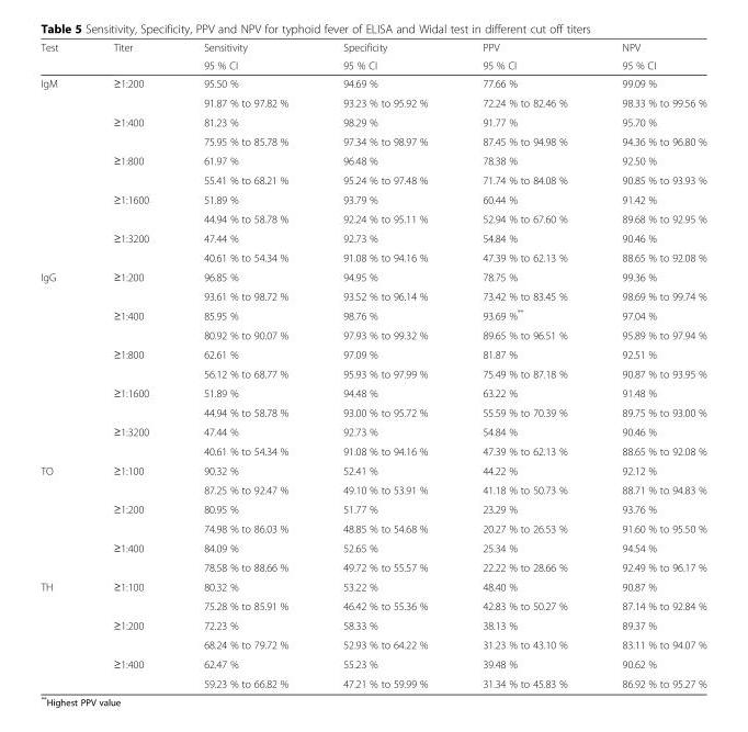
<table><thead><tr><td rowspan="2">Test</td><td rowspan="2">Titer</td><td rowspan="2">Sensitivity 95 % CI</td><td rowspan="2">Specificity 95 % CI</td><td rowspan="2">PPV 95 % CI</td><td rowspan="2">NPV 95 % CI</td></tr><tr></tr></thead><tbody><tr><td rowspan="10">IgM</td><td>≥1:200</td><td>95.50 %</td><td>94.69 %</td><td>77.66 %</td><td>99.09 %</td></tr><tr><td></td><td>91.87 % to 97.82 %</td><td>93.23 % to 95.92 %</td><td>72.24 % to 82.46 %</td><td>98.33 % to 99.56 %</td></tr><tr><td>≥1:400</td><td>81.23 %</td><td>98.29 %</td><td>91.77 %</td><td>95.70 %</td></tr><tr><td></td><td>75.95 % to 85.78 %</td><td>97.34 % to 98.97 %</td><td>87.45 % to 94.98 %</td><td>94.36 % to 96.80 %</td></tr><tr><td>≥1:800</td><td>61.97 %</td><td>96.48 %</td><td>78.38 %</td><td>92.50 %</td></tr><tr><td></td><td>55.41 % to 68.21 %</td><td>95.24 % to 97.48 %</td><td>71.74 % to 84.08 %</td><td>90.85 % to 93.93 %</td></tr><tr><td>≥1:1600</td><td>51.89 %</td><td>93.79 %</td><td>60.44 %</td><td>91.42 %</td></tr><tr><td></td><td>44.94 % to 58.78 %</td><td>92.24 % to 95.11 %</td><td>52.94 % to 67.60 %</td><td>89.68 % to 92.95 %</td></tr><tr><td>≥1:3200</td><td>47.44 %</td><td>92.73 %</td><td>54.84 %</td><td>90.46 %</td></tr><tr><td></td><td>40.61 % to 54.34 %</td><td>91.08 % to 94.16 %</td><td>47.39 % to 62.13 %</td><td>88.65 % to 92.08 %</td></tr><tr><td rowspan="10">IgG</td><td>≥1:200</td><td>96.85 %</td><td>94.95 %</td><td>78.75 %</td><td>99.36 %</td></tr><tr><td></td><td>93.61 % to 98.72 %</td><td>93.52 % to 96.14 %</td><td>73.42 % to 83.45 %</td><td>98.69 % to 99.74 %</td></tr><tr><td>≥1:400</td><td>85.95 %</td><td>98.76 %</td><td>93.69 %**</td><td>97.04 %</td></tr><tr><td></td><td>80.92 % to 90.07 %</td><td>97.93 % to 99.32 %</td><td>89.65 % to 96.51 %</td><td>95.89 % to 97.94 %</td></tr><tr><td>≥1:800</td><td>62.61 %</td><td>97.09 %</td><td>81.87 %</td><td>92.51 %</td></tr><tr><td></td><td>56.12 % to 68.77 %</td><td>95.93 % to 97.99 %</td><td>75.49 % to 87.18 %</td><td>90.87 % to 93.95 %</td></tr><tr><td>≥1:1600</td><td>51.89 %</td><td>94.48 %</td><td>63.22 %</td><td>91.48 %</td></tr><tr><td></td><td>44.94 % to 58.78 %</td><td>93.00 % to 95.72 %</td><td>55.59 % to 70.39 %</td><td>89.75 % to 93.00 %</td></tr><tr><td>≥1:3200</td><td>47.44 %</td><td>92.73 %</td><td>54.84 %</td><td>90.46 %</td></tr><tr><td></td><td>40.61 % to 54.34 %</td><td>91.08 % to 94.16 %</td><td>47.39 % to 62.13 %</td><td>88.65 % to 92.08 %</td></tr><tr><td rowspan="6">TO</td><td>≥1:100</td><td>90.32 %</td><td>52.41 %</td><td>44.22 %</td><td>92.12 %</td></tr><tr><td></td><td>87.25 % to 92.47 %</td><td>49.10 % to 53.91 %</td><td>41.18 % to 50.73 %</td><td>88.71 % to 94.83 %</td></tr><tr><td>≥1:200</td><td>80.95 %</td><td>51.77 %</td><td>23.29 %</td><td>93.76 %</td></tr><tr><td></td><td>74.98 % to 86.03 %</td><td>48.85 % to 54.68 %</td><td>20.27 % to 26.53 %</td><td>91.60 % to 95.50 %</td></tr><tr><td>≥1:400</td><td>84.09 %</td><td>52.65 %</td><td>25.34 %</td><td>94.54 %</td></tr><tr><td></td><td>78.58 % to 88.66 %</td><td>49.72 % to 55.57 %</td><td>22.22 % to 28.66 %</td><td>92.49 % to 96.17 %</td></tr><tr><td rowspan="6">TH</td><td>≥1:100</td><td>80.32 %</td><td>53.22 %</td><td>48.40 %</td><td>90.87 %</td></tr><tr><td></td><td>75.28 % to 85.91 %</td><td>46.42 % to 55.36 %</td><td>42.83 % to 50.27 %</td><td>87.14 % to 92.84 %</td></tr><tr><td>≥1:200</td><td>72.23 %</td><td>58.33 %</td><td>38.13 %</td><td>89.37 %</td></tr><tr><td></td><td>68.24 % to 79.72 %</td><td>52.93 % to 64.22 %</td><td>31.23 % to 43.10 %</td><td>83.11 % to 94.07 %</td></tr><tr><td>≥1:400</td><td>62.47 %</td><td>55.23 %</td><td>39.48 %</td><td>90.62 %</td></tr><tr><td></td><td>59.23 % to 66.82 %</td><td>47.21 % to 59.99 %</td><td>31.34 % to 45.83 %</td><td>86.92 % to 95.27 %</td></tr></tbody></table>